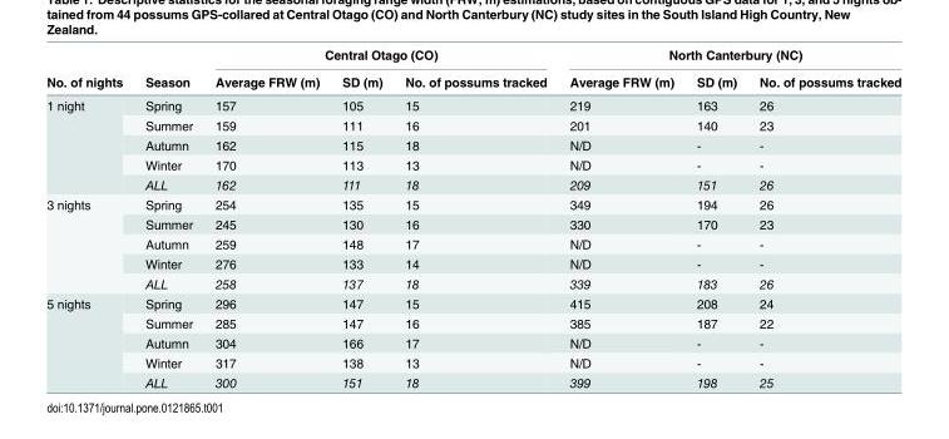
<table><thead><tr><td rowspan="2">No. of nights</td><td rowspan="2">Season</td><td colspan="3">Central Otago (CO)</td><td colspan="3">North Canterbury (NC)</td></tr><tr><td>Average FRW (m)</td><td>SD (m)</td><td>No. of possums tracked</td><td>Average FRW (m)</td><td>SD (m)</td><td>No. of possums tracked</td></tr></thead><tbody><tr><td rowspan="5">1 night</td><td>Spring</td><td>157</td><td>105</td><td>15</td><td>219</td><td>163</td><td>26</td></tr><tr><td>Summer</td><td>159</td><td>111</td><td>16</td><td>201</td><td>140</td><td>23</td></tr><tr><td>Autumn</td><td>162</td><td>115</td><td>18</td><td>N/D</td><td>-</td><td>-</td></tr><tr><td>Winter</td><td>170</td><td>113</td><td>13</td><td>N/D</td><td>-</td><td>-</td></tr><tr><td>ALL</td><td>162</td><td>111</td><td>18</td><td>209</td><td>151</td><td>26</td></tr><tr><td rowspan="5">3 nights</td><td>Spring</td><td>254</td><td>135</td><td>15</td><td>349</td><td>194</td><td>26</td></tr><tr><td>Summer</td><td>245</td><td>130</td><td>16</td><td>330</td><td>170</td><td>23</td></tr><tr><td>Autumn</td><td>259</td><td>148</td><td>17</td><td>N/D</td><td>-</td><td>-</td></tr><tr><td>Winter</td><td>276</td><td>133</td><td>14</td><td>N/D</td><td>-</td><td>-</td></tr><tr><td>ALL</td><td>258</td><td>137</td><td>18</td><td>339</td><td>183</td><td>26</td></tr><tr><td rowspan="5">5 nights</td><td>Spring</td><td>296</td><td>147</td><td>15</td><td>415</td><td>208</td><td>24</td></tr><tr><td>Summer</td><td>285</td><td>147</td><td>16</td><td>385</td><td>187</td><td>22</td></tr><tr><td>Autumn</td><td>304</td><td>166</td><td>17</td><td>N/D</td><td>-</td><td>-</td></tr><tr><td>Winter</td><td>317</td><td>138</td><td>13</td><td>N/D</td><td>-</td><td>-</td></tr><tr><td>ALL</td><td>300</td><td>151</td><td>18</td><td>399</td><td>198</td><td>25</td></tr></tbody></table>